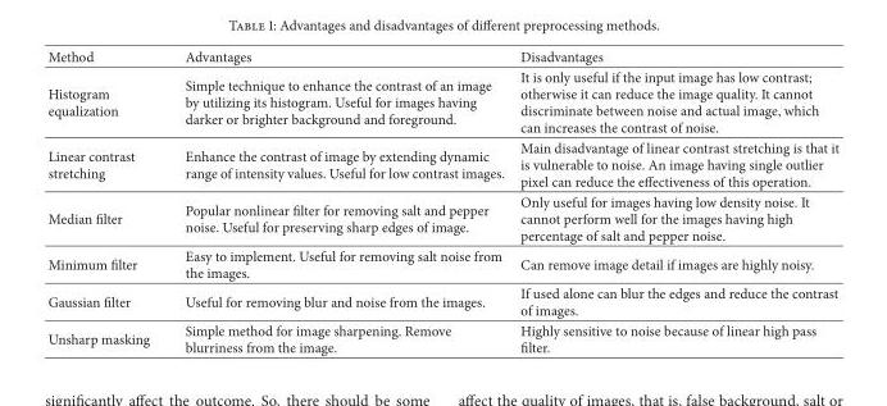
<table><thead><tr><td>Method</td><td>Advantages</td><td>Disadvantages</td></tr></thead><tbody><tr><td>Histogram equalization</td><td>Simple technique to enhance the contrast of an image by utilizing its histogram. Useful for images having darker or brighter background and foreground.</td><td>It is only useful if the input image has low contrast; otherwise it can reduce the image quality. It cannot discriminate between noise and actual image, which can increases the contrast of noise.</td></tr><tr><td>Linear contrast stretching</td><td>Enhance the contrast of image by extending dynamic range of intensity values. Useful for low contrast images.</td><td>Main disadvantage of linear contrast stretching is that it is vulnerable to noise. An image having single outlier pixel can reduce the effectiveness of this operation.</td></tr><tr><td>Median filter</td><td>Popular nonlinear filter for removing salt and pepper noise. Useful for preserving sharp edges of image.</td><td>Only useful for images having low density noise. It cannot perform well for the images having high percentage of salt and pepper noise.</td></tr><tr><td>Minimum filter</td><td>Easy to implement. Useful for removing salt noise from the images.</td><td>Can remove image detail if images are highly noisy.</td></tr><tr><td>Gaussian filter</td><td>Useful for removing blur and noise from the images.</td><td>If used alone can blur the edges and reduce the contrast of images.</td></tr><tr><td>Unsharp masking</td><td>Simple method for image sharpening. Remove blurriness from the image.</td><td>Highly sensitive to noise because of linear high pass filter.</td></tr></tbody></table>